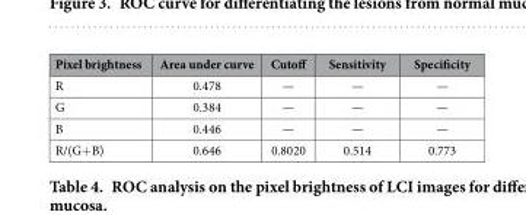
<table><thead><tr><td>Pixel brightness</td><td>Area under curve</td><td>Cutoff</td><td>Sensitivity</td><td>Specificity</td></tr></thead><tbody><tr><td>R</td><td>0.478</td><td>—</td><td>—</td><td>—</td></tr><tr><td>G</td><td>0.384</td><td>—</td><td>—</td><td>—</td></tr><tr><td>B</td><td>0.446</td><td>—</td><td>—</td><td>—</td></tr><tr><td>R/(G+ B)</td><td>0.646</td><td>0.8020</td><td>0.514</td><td>0.773</td></tr></tbody></table>